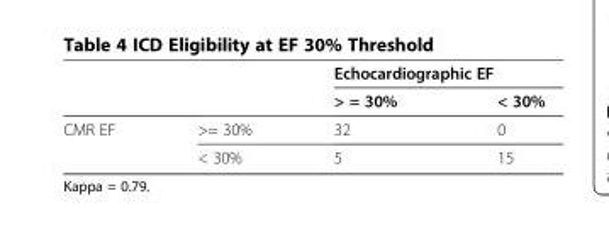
<table><thead><tr><td rowspan="2"></td><td rowspan="2"></td><td colspan="2">Echocardiographic EF</td></tr><tr><td>&gt; = 30%</td><td>&lt; 30%</td></tr></thead><tbody><tr><td rowspan="2">CMR EF</td><td>&gt;= 30%</td><td>32</td><td>0</td></tr><tr><td>&lt; 30%</td><td>5</td><td>15</td></tr></tbody></table>